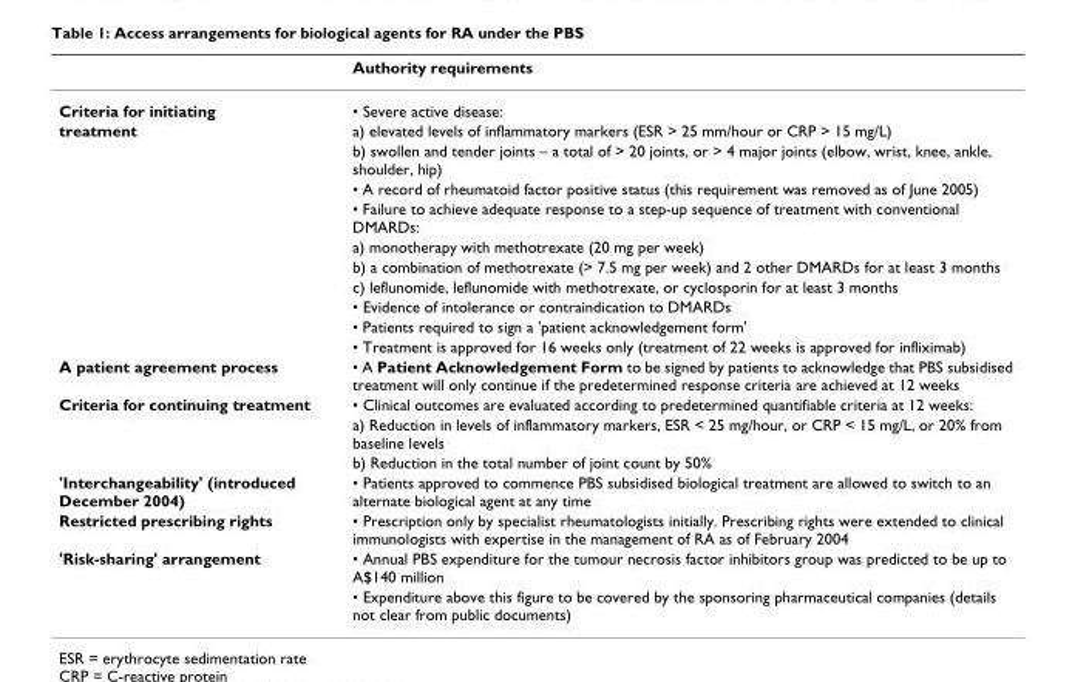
<table><thead><tr><td></td><td>Authority requirements</td></tr></thead><tbody><tr><td>Criteria for initiating</td><td>• Severe active disease:</td></tr><tr><td rowspan="10">treatment</td><td>a) elevated levels of inflammatory markers (ESR &gt; 25 mm/hour or CRP &gt; 15 mg/L)</td></tr><tr><td>b) swollen and tender joints – a total of &gt; 20 joints, or &gt; 4 major joints (elbow, wrist, knee, ankle, shoulder, hip)</td></tr><tr><td>• A record of rheumatoid factor positive status (this requirement was removed as of June 2005)</td></tr><tr><td>• Failure to achieve adequate response to a step-up sequence of treatment with conventional DMARDs:</td></tr><tr><td>a) monotherapy with methotrexate (20 mg per week)</td></tr><tr><td>b) a combination of methotrexate (&gt; 7.5 mg per week) and 2 other DMARDs for at least 3 months</td></tr><tr><td>c) leflunomide, leflunomide with methotrexate, or cyclosporin for at least 3 months</td></tr><tr><td>• Evidence of intolerance or contraindication to DMARDs</td></tr><tr><td>• Patients required to sign a &#x27;patient acknowledgement form&#x27;</td></tr><tr><td>• Treatment is approved for 16 weeks only (treatment of 22 weeks is approved for infliximab)</td></tr><tr><td>A patient agreement process</td><td>• A Patient Acknowledgement Form to be signed by patients to acknowledge that PBS subsidised treatment will only continue if the predetermined response criteria are achieved at 12 weeks</td></tr><tr><td rowspan="3">Criteria for continuing treatment</td><td>• Clinical outcomes are evaluated according to predetermined quantifiable criteria at 12 weeks:</td></tr><tr><td>a) Reduction in levels of inflammatory markers, ESR &lt; 25 mg/hour, or CRP &lt; 15 mg/L, or 20% from baseline levels</td></tr><tr><td>b) Reduction in the total number of joint count by 50%</td></tr><tr><td>&#x27;Interchangeability&#x27; (introduced December 2004)</td><td>• Patients approved to commence PBS subsidised biological treatment are allowed to switch to an alternate biological agent at any time</td></tr><tr><td>Restricted prescribing rights</td><td>• Prescription only by specialist rheumatologists initially. Prescribing rights were extended to clinical immunologists with expertise in the management of RA as of February 2004</td></tr><tr><td rowspan="2">&#x27;Risk-sharing&#x27; arrangement</td><td>• Annual PBS expenditure for the tumour necrosis factor inhibitors group was predicted to be up to A$140 million</td></tr><tr><td>• Expenditure above this figure to be covered by the sponsoring pharmaceutical companies (details not clear from public documents)</td></tr></tbody></table>